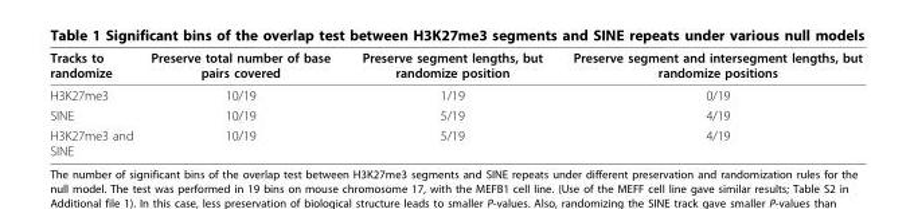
<table><thead><tr><td>Tracks to randomize</td><td>Preserve total number of base pairs covered</td><td>Preserve segment lengths, but randomize position</td><td>Preserve segment and intersegment lengths, but randomize positions</td></tr></thead><tbody><tr><td>H3K27me3</td><td>10/19</td><td>1/19</td><td>0/19</td></tr><tr><td>SINE</td><td>10/19</td><td>5/19</td><td>4/19</td></tr><tr><td>H3K27me3 and SINE</td><td>10/19</td><td>5/19</td><td>4/19</td></tr></tbody></table>